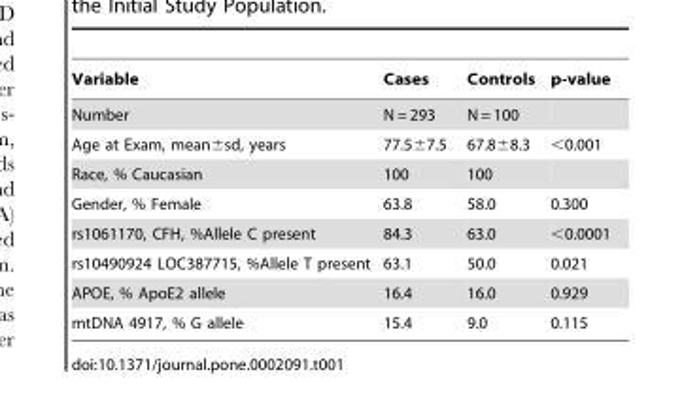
<table><thead><tr><td>Variable</td><td>Cases</td><td>Controls</td><td>p-value</td></tr></thead><tbody><tr><td>Number</td><td>N = 293</td><td>N = 100</td><td></td></tr><tr><td>Age at Exam, mean±sd, years</td><td>77.5±7.5</td><td>67.8±8.3</td><td>&lt;0.001</td></tr><tr><td>Race, % Caucasian</td><td>100</td><td>100</td><td></td></tr><tr><td>Gender, % Female</td><td>63.8</td><td>58.0</td><td>0.300</td></tr><tr><td>rs1061170, CFH, %Allele C present</td><td>84.3</td><td>63.0</td><td>&lt;0.0001</td></tr><tr><td>rs10490924 LOC387715, %Allele T present</td><td>63.1</td><td>50.0</td><td>0.021</td></tr><tr><td>APOE, % ApoE2 allele</td><td>16.4</td><td>16.0</td><td>0.929</td></tr><tr><td>mtDNA 4917, % G allele</td><td>15.4</td><td>9.0</td><td>0.115</td></tr></tbody></table>